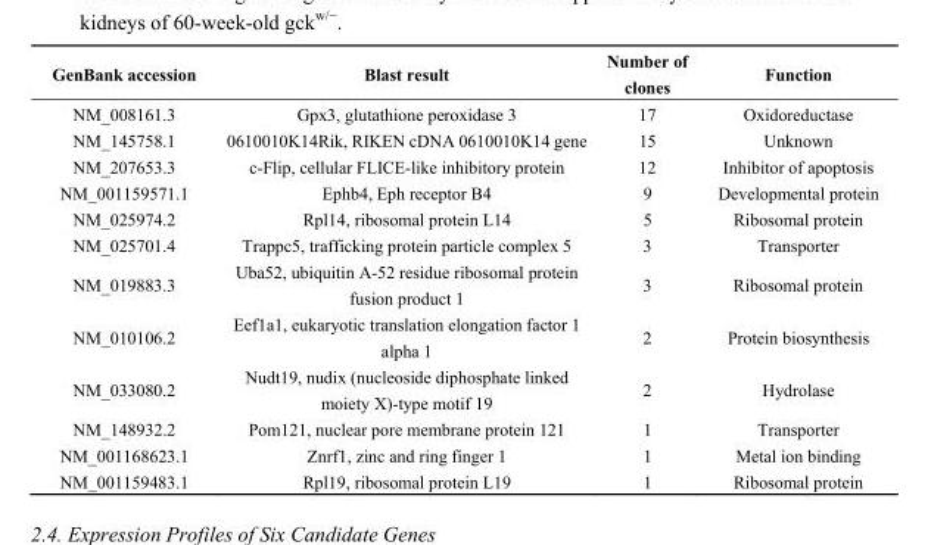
<table><thead><tr><td>GenBank accession</td><td>Blast result</td><td>Number of clones</td><td>Function</td></tr></thead><tbody><tr><td>NM_008161.3</td><td>Gpx3, glutathione peroxidase 3</td><td>17</td><td>Oxidoreductase</td></tr><tr><td>NM_145758.1</td><td>0610010K14Rik, RIKEN cDNA 0610010K14 gene</td><td>15</td><td>Unknown</td></tr><tr><td>NM_207653.3</td><td>c-Flip, cellular FLICE-like inhibitory protein</td><td>12</td><td>Inhibitor of apoptosis</td></tr><tr><td>NM_001159571.1</td><td>Ephb4, Eph receptor B4</td><td>9</td><td>Developmental protein</td></tr><tr><td>NM_025974.2</td><td>Rpl14, ribosomal protein L14</td><td>5</td><td>Ribosomal protein</td></tr><tr><td>NM_025701.4</td><td>Trappc5, trafficking protein particle complex 5</td><td>3</td><td>Transporter</td></tr><tr><td>NM_019883.3</td><td>Uba52, ubiquitin A-52 residue ribosomal protein fusion product 1</td><td>3</td><td>Ribosomal protein</td></tr><tr><td>NM_010106.2</td><td>Eef1a1, eukaryotic translation elongation factor 1 alpha 1</td><td>2</td><td>Protein biosynthesis</td></tr><tr><td>NM_033080.2</td><td>Nudt19, nudix (nucleoside diphosphate linked moiety X)-type motif 19</td><td>2</td><td>Hydrolase</td></tr><tr><td>NM_148932.2</td><td>Pom121, nuclear pore membrane protein 121</td><td>1</td><td>Transporter</td></tr><tr><td>NM_001168623.1</td><td>Znrf1, zinc and ring finger 1</td><td>1</td><td>Metal ion binding</td></tr><tr><td>NM_001159483.1</td><td>Rpl19, ribosomal protein L19</td><td>1</td><td>Ribosomal protein</td></tr></tbody></table>